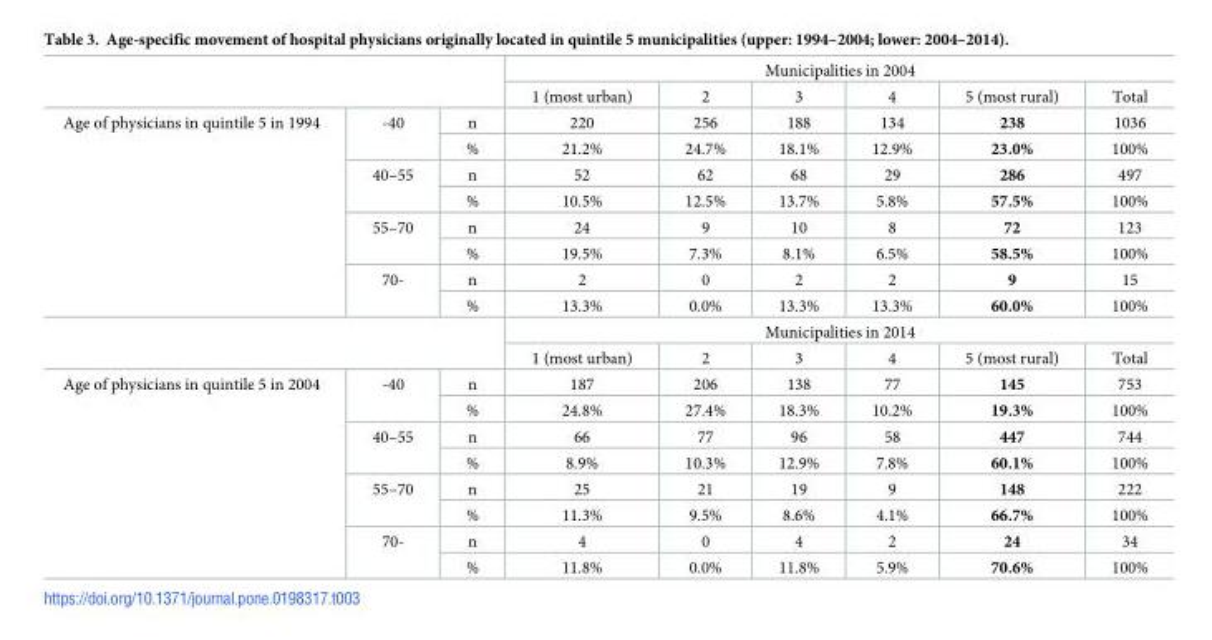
<table><thead><tr><td rowspan="2"></td><td rowspan="2"></td><td rowspan="2"></td><td colspan="6">Municipalities in 2004</td></tr><tr><td>1 (most urban)</td><td>2</td><td>3</td><td>4</td><td>5 (most rural)</td><td>Total</td></tr></thead><tbody><tr><td rowspan="8">Age of physicians in quintile 5 in 1994</td><td rowspan="2">-40</td><td>n</td><td>220</td><td>256</td><td>188</td><td>134</td><td>238</td><td>1036</td></tr><tr><td>%</td><td>21.2%</td><td>24.7%</td><td>18.1%</td><td>12.9%</td><td>23.0%</td><td>100%</td></tr><tr><td rowspan="2">40–55</td><td>n</td><td>52</td><td>62</td><td>68</td><td>29</td><td>286</td><td>497</td></tr><tr><td>%</td><td>10.5%</td><td>12.5%</td><td>13.7%</td><td>5.8%</td><td>57.5%</td><td>100%</td></tr><tr><td rowspan="2">55–70</td><td>n</td><td>24</td><td>9</td><td>10</td><td>8</td><td>72</td><td>123</td></tr><tr><td>%</td><td>19.5%</td><td>7.3%</td><td>8.1%</td><td>6.5%</td><td>58.5%</td><td>100%</td></tr><tr><td rowspan="2">70-</td><td>n</td><td>2</td><td>0</td><td>2</td><td>2</td><td>9</td><td>15</td></tr><tr><td>%</td><td>13.3%</td><td>0.0%</td><td>13.3%</td><td>13.3%</td><td>60.0%</td><td>100%</td></tr><tr><td rowspan="2" colspan="3"></td><td colspan="6">Municipalities in 2014</td></tr><tr><td>1 (most urban)</td><td>2</td><td>3</td><td>4</td><td>5 (most rural)</td><td>Total</td></tr><tr><td rowspan="8">Age of physicians in quintile 5 in 2004</td><td rowspan="2">-40</td><td>n</td><td>187</td><td>206</td><td>138</td><td>77</td><td>145</td><td>753</td></tr><tr><td>%</td><td>24.8%</td><td>27.4%</td><td>18.3%</td><td>10.2%</td><td>19.3%</td><td>100%</td></tr><tr><td rowspan="2">40–55</td><td>n</td><td>66</td><td>77</td><td>96</td><td>58</td><td>447</td><td>744</td></tr><tr><td>%</td><td>8.9%</td><td>10.3%</td><td>12.9%</td><td>7.8%</td><td>60.1%</td><td>100%</td></tr><tr><td rowspan="2">55–70</td><td>n</td><td>25</td><td>21</td><td>19</td><td>9</td><td>148</td><td>222</td></tr><tr><td>%</td><td>11.3%</td><td>9.5%</td><td>8.6%</td><td>4.1%</td><td>66.7%</td><td>100%</td></tr><tr><td rowspan="2">70-</td><td>n</td><td>4</td><td>0</td><td>4</td><td>2</td><td>24</td><td>34</td></tr><tr><td>%</td><td>11.8%</td><td>0.0%</td><td>11.8%</td><td>5.9%</td><td>70.6%</td><td>100%</td></tr></tbody></table>